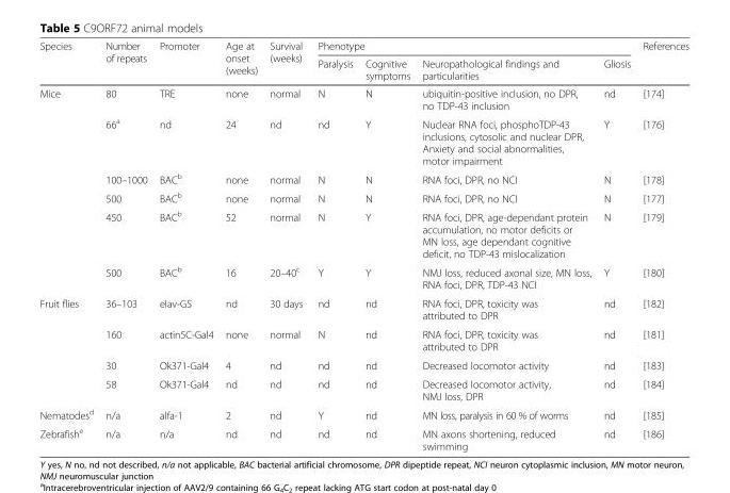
<table><thead><tr><td rowspan="2">Species</td><td rowspan="2">Number of repeats</td><td rowspan="2">Promoter</td><td rowspan="2">Age at onset (weeks)</td><td rowspan="2">Survival (weeks)</td><td colspan="4">Phenotype</td><td rowspan="2">References</td></tr><tr><td>Paralysis</td><td>Cognitive symptoms</td><td>Neuropathological findings and particularities</td><td>Gliosis</td></tr></thead><tbody><tr><td rowspan="6">Mice</td><td>80</td><td>TRE</td><td>none</td><td>normal</td><td>N</td><td>N</td><td>ubiquitin-positive inclusion, no DPR, no TDP-43 inclusion</td><td>nd</td><td>[174]</td></tr><tr><td>66<sup>a</sup></td><td>nd</td><td>24</td><td>nd</td><td>nd</td><td>Y</td><td>Nuclear RNA foci, phosphoTDP-43 inclusions, cytosolic and nuclear DPR, Anxiety and social abnormalities, motor impairment</td><td>Y</td><td>[176]</td></tr><tr><td>100–1000</td><td>BAC<sup>b</sup></td><td>none</td><td>normal</td><td>N</td><td>N</td><td>RNA foci, DPR, no NCI</td><td>N</td><td>[178]</td></tr><tr><td>500</td><td>BAC<sup>b</sup></td><td>none</td><td>normal</td><td>N</td><td>N</td><td>RNA foci, DPR, no NCI</td><td>N</td><td>[177]</td></tr><tr><td>450</td><td>BAC<sup>b</sup></td><td>52</td><td>normal</td><td>N</td><td>Y</td><td>RNA foci, DPR, age-dependant protein accumulation, no motor deficits or MN loss, age dependant cognitive deficit, no TDP-43 mislocalization</td><td>N</td><td>[179]</td></tr><tr><td>500</td><td>BAC<sup>b</sup></td><td>16</td><td>20–40<sup>c</sup></td><td>Y</td><td>Y</td><td>NMJ loss, reduced axonal size, MN loss, RNA foci, DPR, TDP-43 NCI</td><td>Y</td><td>[180]</td></tr><tr><td rowspan="4">Fruit flies</td><td>36–103</td><td>elav-GS</td><td>nd</td><td>30 days</td><td>nd</td><td>nd</td><td>RNA foci, DPR, toxicity was attributed to DPR</td><td>nd</td><td>[182]</td></tr><tr><td>160</td><td>actin5C-Gal4</td><td>none</td><td>normal</td><td>N</td><td>nd</td><td>RNA foci, DPR, toxicity was attributed to DPR</td><td>nd</td><td>[181]</td></tr><tr><td>30</td><td>Ok371-Gal4</td><td>4</td><td>nd</td><td>nd</td><td>nd</td><td>Decreased locomotor activity</td><td>nd</td><td>[183]</td></tr><tr><td>58</td><td>Ok371-Gal4</td><td>nd</td><td>nd</td><td>nd</td><td>nd</td><td>Decreased locomotor activity, NMJ loss, DPR</td><td>nd</td><td>[184]</td></tr><tr><td>Nematodes<sup>d</sup></td><td>n/a</td><td>alfa-1</td><td>2</td><td>nd</td><td>Y</td><td>nd</td><td>MN loss, paralysis in 60 % of worms</td><td>nd</td><td>[185]</td></tr><tr><td>Zebrafish<sup>e</sup></td><td>n/a</td><td>n/a</td><td>nd</td><td>nd</td><td>nd</td><td>nd</td><td>MN axons shortening, reduced swimming</td><td>nd</td><td>[186]</td></tr></tbody></table>